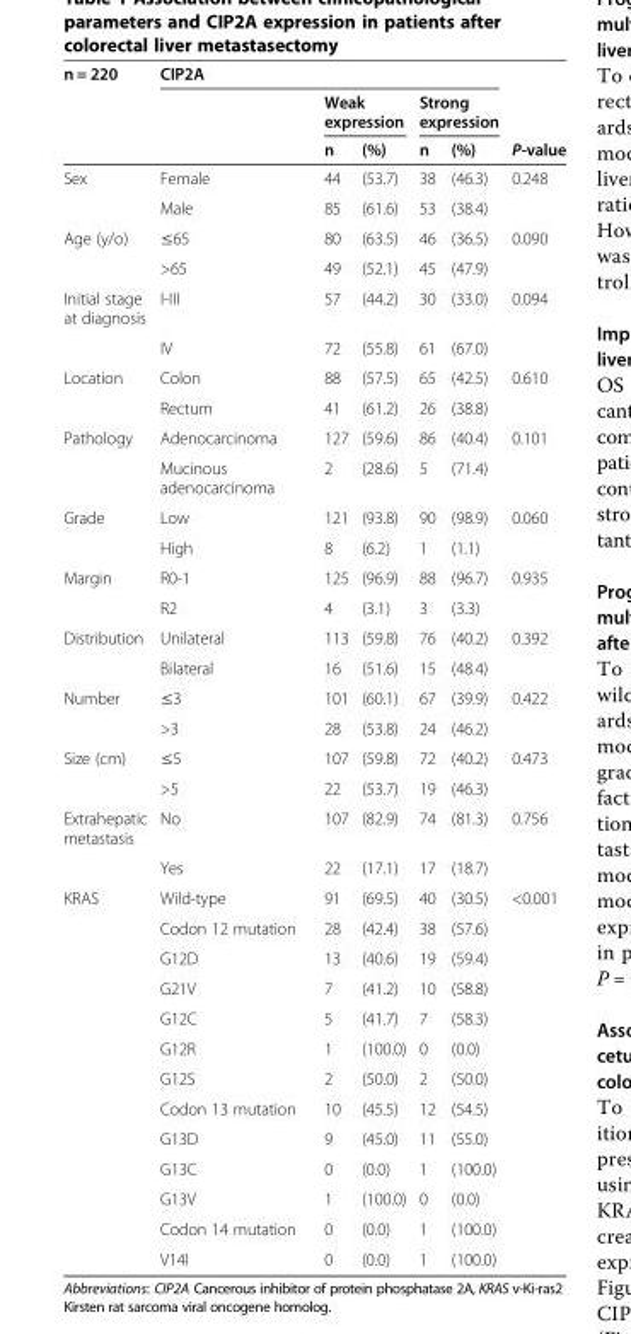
<table><thead><tr><td rowspan="3">n = 220</td><td colspan="5">CIP2A</td><td rowspan="3">P-value</td></tr><tr><td rowspan="2"></td><td colspan="2">Weak expression</td><td colspan="2">Strong expression</td></tr><tr><td>n</td><td>(%)</td><td>n</td><td>(%)</td></tr></thead><tbody><tr><td rowspan="2">Sex</td><td>Female</td><td>44</td><td>(53.7)</td><td>38</td><td>(46.3)</td><td>0.248</td></tr><tr><td>Male</td><td>85</td><td>(61.6)</td><td>53</td><td>(38.4)</td><td></td></tr><tr><td rowspan="2">Age (y/o)</td><td>≤65</td><td>80</td><td>(63.5)</td><td>46</td><td>(36.5)</td><td>0.090</td></tr><tr><td>&gt;65</td><td>49</td><td>(52.1)</td><td>45</td><td>(47.9)</td><td></td></tr><tr><td rowspan="2">Initial stage at diagnosis</td><td>I-III</td><td>57</td><td>(44.2)</td><td>30</td><td>(33.0)</td><td>0.094</td></tr><tr><td>IV</td><td>72</td><td>(55.8)</td><td>61</td><td>(67.0)</td><td></td></tr><tr><td rowspan="2">Location</td><td>Colon</td><td>88</td><td>(57.5)</td><td>65</td><td>(42.5)</td><td>0.610</td></tr><tr><td>Rectum</td><td>41</td><td>(61.2)</td><td>26</td><td>(38.8)</td><td></td></tr><tr><td rowspan="2">Pathology</td><td>Adenocarcinoma</td><td>127</td><td>(59.6)</td><td>86</td><td>(40.4)</td><td>0.101</td></tr><tr><td>Mucinous adenocarcinoma</td><td>2</td><td>(28.6)</td><td>5</td><td>(71.4)</td><td></td></tr><tr><td rowspan="2">Grade</td><td>Low</td><td>121</td><td>(93.8)</td><td>90</td><td>(98.9)</td><td>0.060</td></tr><tr><td>High</td><td>8</td><td>(6.2)</td><td>1</td><td>(1.1)</td><td></td></tr><tr><td rowspan="2">Margin</td><td>R0-1</td><td>125</td><td>(96.9)</td><td>88</td><td>(96.7)</td><td>0.935</td></tr><tr><td>R2</td><td>4</td><td>(3.1)</td><td>3</td><td>(3.3)</td><td></td></tr><tr><td rowspan="2">Distribution</td><td>Unilateral</td><td>113</td><td>(59.8)</td><td>76</td><td>(40.2)</td><td>0.392</td></tr><tr><td>Bilateral</td><td>16</td><td>(51.6)</td><td>15</td><td>(48.4)</td><td></td></tr><tr><td rowspan="2">Number</td><td>≤3</td><td>101</td><td>(60.1)</td><td>67</td><td>(39.9)</td><td>0.422</td></tr><tr><td>&gt;3</td><td>28</td><td>(53.8)</td><td>24</td><td>(46.2)</td><td></td></tr><tr><td rowspan="2">Size (cm)</td><td>≤5</td><td>107</td><td>(59.8)</td><td>72</td><td>(40.2)</td><td>0.473</td></tr><tr><td>&gt;5</td><td>22</td><td>(53.7)</td><td>19</td><td>(46.3)</td><td></td></tr><tr><td rowspan="2">Extrahepatic metastasis</td><td>No</td><td>107</td><td>(82.9)</td><td>74</td><td>(81.3)</td><td>0.756</td></tr><tr><td>Yes</td><td>22</td><td>(17.1)</td><td>17</td><td>(18.7)</td><td></td></tr><tr><td rowspan="13">KRAS</td><td>Wild-type</td><td>91</td><td>(69.5)</td><td>40</td><td>(30.5)</td><td>&lt;0.001</td></tr><tr><td>Codon 12 mutation</td><td>28</td><td>(42.4)</td><td>38</td><td>(57.6)</td><td></td></tr><tr><td>G12D</td><td>13</td><td>(40.6)</td><td>19</td><td>(59.4)</td><td></td></tr><tr><td>G21V</td><td>7</td><td>(41.2)</td><td>10</td><td>(58.8)</td><td></td></tr><tr><td>G12C</td><td>5</td><td>(41.7)</td><td>7</td><td>(58.3)</td><td></td></tr><tr><td>G12R</td><td>1</td><td>(100.0)</td><td>0</td><td>(0.0)</td><td></td></tr><tr><td>G12S</td><td>2</td><td>(50.0)</td><td>2</td><td>(50.0)</td><td></td></tr><tr><td>Codon 13 mutation</td><td>10</td><td>(45.5)</td><td>12</td><td>(54.5)</td><td></td></tr><tr><td>G13D</td><td>9</td><td>(45.0)</td><td>11</td><td>(55.0)</td><td></td></tr><tr><td>G13C</td><td>0</td><td>(0.0)</td><td>1</td><td>(100.0)</td><td></td></tr><tr><td>G13V</td><td>1</td><td>(100.0)</td><td>0</td><td>(0.0)</td><td></td></tr><tr><td>Codon 14 mutation</td><td>0</td><td>(0.0)</td><td>1</td><td>(100.0)</td><td></td></tr><tr><td>V14I</td><td>0</td><td>(0.0)</td><td>1</td><td>(100.0)</td><td></td></tr></tbody></table>